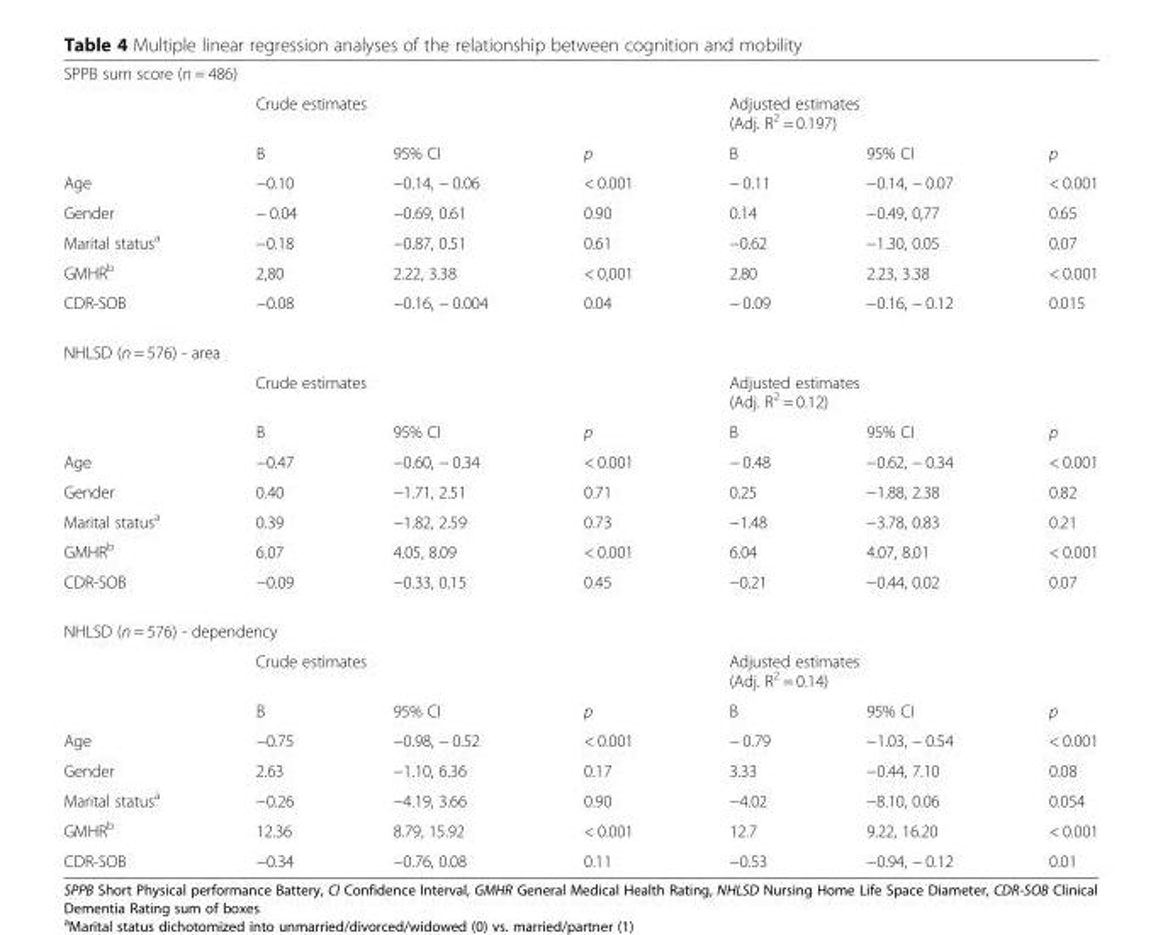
<table><tbody><tr><td colspan="7">SPPB sum score (n = 486)</td></tr><tr><td></td><td colspan="3">Crude estimates</td><td colspan="3">Adjusted estimates (Adj. R<sup>2</sup> = 0.197)</td></tr><tr><td></td><td>B</td><td>95% CI</td><td>p</td><td>B</td><td>95% CI</td><td>p</td></tr><tr><td>Age</td><td>−0.10</td><td>−0.14, − 0.06</td><td>&lt; 0.001</td><td>− 0.11</td><td>−0.14, − 0.07</td><td>&lt; 0.001</td></tr><tr><td>Gender</td><td>− 0.04</td><td>−0.69, 0.61</td><td>0.90</td><td>0.14</td><td>−0.49, 0,77</td><td>0.65</td></tr><tr><td>Marital status<sup>a</sup></td><td>−0.18</td><td>−0.87, 0.51</td><td>0.61</td><td>−0.62</td><td>−1.30, 0.05</td><td>0.07</td></tr><tr><td>GMHR<sup>b</sup></td><td>2,80</td><td>2.22, 3.38</td><td>&lt; 0,001</td><td>2.80</td><td>2.23, 3.38</td><td>&lt; 0.001</td></tr><tr><td>CDR-SOB</td><td>−0.08</td><td>−0.16, − 0.004</td><td>0.04</td><td>− 0.09</td><td>−0.16, − 0.12</td><td>0.015</td></tr><tr><td colspan="7">NHLSD (n = 576) - area</td></tr><tr><td></td><td colspan="3">Crude estimates</td><td colspan="3">Adjusted estimates (Adj. R<sup>2</sup> = 0.12)</td></tr><tr><td></td><td>B</td><td>95% CI</td><td>p</td><td>B</td><td>95% CI</td><td>p</td></tr><tr><td>Age</td><td>−0.47</td><td>−0.60, − 0.34</td><td>&lt; 0.001</td><td>− 0.48</td><td>−0.62, − 0.34</td><td>&lt; 0.001</td></tr><tr><td>Gender</td><td>0.40</td><td>−1.71, 2.51</td><td>0.71</td><td>0.25</td><td>−1.88, 2.38</td><td>0.82</td></tr><tr><td>Marital status<sup>a</sup></td><td>0.39</td><td>−1.82, 2.59</td><td>0.73</td><td>−1.48</td><td>−3.78, 0.83</td><td>0.21</td></tr><tr><td>GMHR<sup>b</sup></td><td>6.07</td><td>4.05, 8.09</td><td>&lt; 0.001</td><td>6.04</td><td>4.07, 8.01</td><td>&lt; 0.001</td></tr><tr><td>CDR-SOB</td><td>−0.09</td><td>−0.33, 0.15</td><td>0.45</td><td>−0.21</td><td>−0.44, 0.02</td><td>0.07</td></tr><tr><td colspan="7">NHLSD (n = 576) - dependency</td></tr><tr><td></td><td colspan="3">Crude estimates</td><td colspan="3">Adjusted estimates (Adj. R<sup>2</sup> = 0.14)</td></tr><tr><td></td><td>B</td><td>95% CI</td><td>p</td><td>B</td><td>95% CI</td><td>p</td></tr><tr><td>Age</td><td>−0.75</td><td>−0.98, − 0.52</td><td>&lt; 0.001</td><td>− 0.79</td><td>−1.03, − 0.54</td><td>&lt; 0.001</td></tr><tr><td>Gender</td><td>2.63</td><td>−1.10, 6.36</td><td>0.17</td><td>3.33</td><td>−0.44, 7.10</td><td>0.08</td></tr><tr><td>Marital status<sup>a</sup></td><td>−0.26</td><td>−4.19, 3.66</td><td>0.90</td><td>−4.02</td><td>−8.10, 0.06</td><td>0.054</td></tr><tr><td>GMHR<sup>b</sup></td><td>12.36</td><td>8.79, 15.92</td><td>&lt; 0.001</td><td>12.7</td><td>9.22, 16.20</td><td>&lt; 0.001</td></tr><tr><td>CDR-SOB</td><td>−0.34</td><td>−0.76, 0.08</td><td>0.11</td><td>−0.53</td><td>−0.94, − 0.12</td><td>0.01</td></tr></tbody></table>